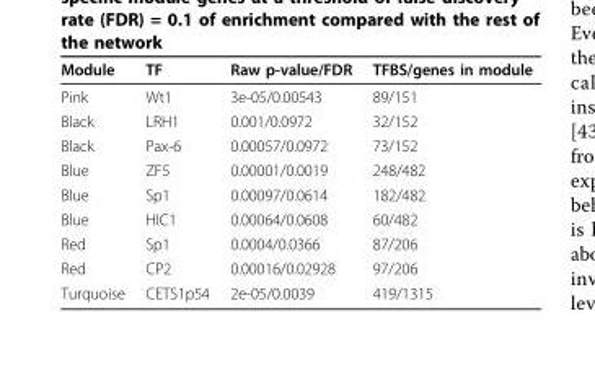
<table><thead><tr><td>Module</td><td>TF</td><td>Raw p-value/FDR</td><td>TFBS/genes in module</td></tr></thead><tbody><tr><td>Pink</td><td>Wt1</td><td>3e-05/0.00543</td><td>89/151</td></tr><tr><td>Black</td><td>LRH1</td><td>0.001/0.0972</td><td>32/152</td></tr><tr><td>Black</td><td>Pax-6</td><td>0.00057/0.0972</td><td>73/152</td></tr><tr><td>Blue</td><td>ZF5</td><td>0.00001/0.0019</td><td>248/482</td></tr><tr><td>Blue</td><td>Sp1</td><td>0.00097/0.0614</td><td>182/482</td></tr><tr><td>Blue</td><td>HIC1</td><td>0.00064/0.0608</td><td>60/482</td></tr><tr><td>Red</td><td>Sp1</td><td>0.0004/0.0366</td><td>87/206</td></tr><tr><td>Red</td><td>CP2</td><td>0.00016/0.02928</td><td>97/206</td></tr><tr><td>Turquoise</td><td>CETS1p54</td><td>2e-05/0.0039</td><td>419/1315</td></tr></tbody></table>